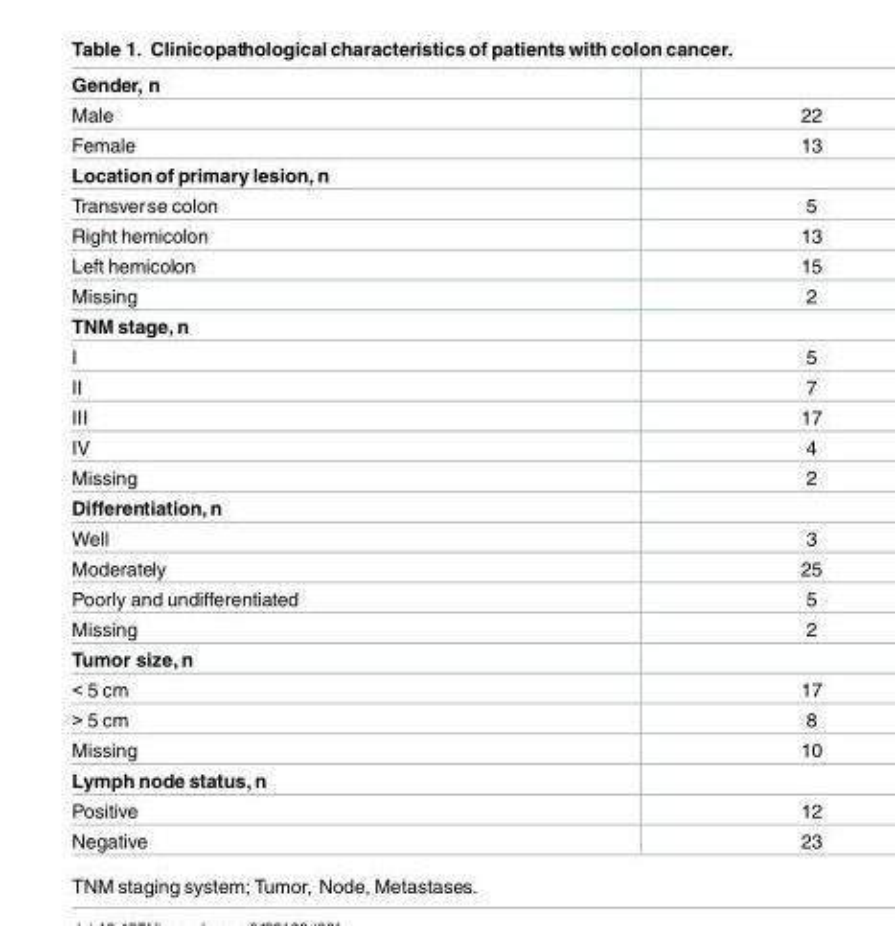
<table><tbody><tr><td colspan="2">Gender, n</td></tr><tr><td>Male</td><td>22</td></tr><tr><td>Female</td><td>13</td></tr><tr><td colspan="2">Location of primary lesion, n</td></tr><tr><td>Transverse colon</td><td>5</td></tr><tr><td>Right hemicolon</td><td>13</td></tr><tr><td>Left hemicolon</td><td>15</td></tr><tr><td>Missing</td><td>2</td></tr><tr><td colspan="2">TNM stage, n</td></tr><tr><td>I</td><td>5</td></tr><tr><td>II</td><td>7</td></tr><tr><td>III</td><td>17</td></tr><tr><td>IV</td><td>4</td></tr><tr><td>Missing</td><td>2</td></tr><tr><td colspan="2">Differentiation, n</td></tr><tr><td>Well</td><td>3</td></tr><tr><td>Moderately</td><td>25</td></tr><tr><td>Poorly and undifferentiated</td><td>5</td></tr><tr><td>Missing</td><td>2</td></tr><tr><td colspan="2">Tumor size, n</td></tr><tr><td>&lt; 5 cm</td><td>17</td></tr><tr><td>&gt; 5 cm</td><td>8</td></tr><tr><td>Missing</td><td>10</td></tr><tr><td colspan="2">Lymph node status, n</td></tr><tr><td>Positive</td><td>12</td></tr><tr><td>Negative</td><td>23</td></tr></tbody></table>